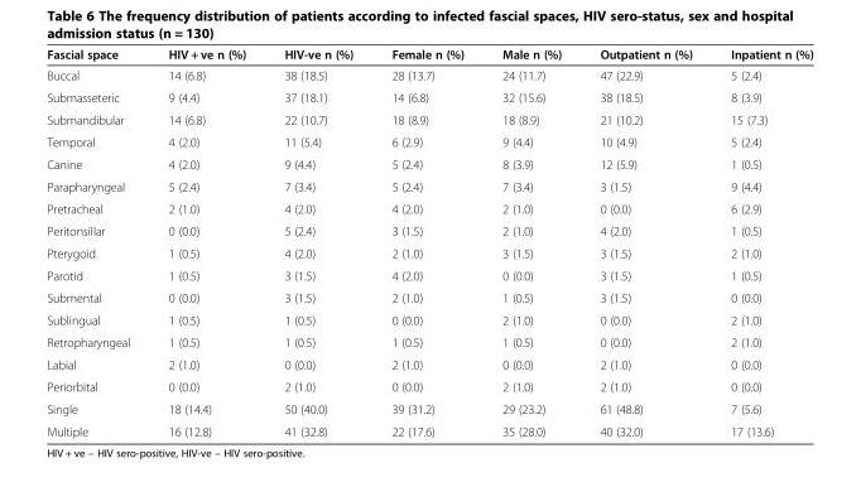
<table><thead><tr><td>Fascial space</td><td>HIV + ve n (%)</td><td>HIV-ve n (%)</td><td>Female n (%)</td><td>Male n (%)</td><td>Outpatient n (%)</td><td>Inpatient n (%)</td></tr></thead><tbody><tr><td>Buccal</td><td>14 (6.8)</td><td>38 (18.5)</td><td>28 (13.7)</td><td>24 (11.7)</td><td>47 (22.9)</td><td>5 (2.4)</td></tr><tr><td>Submasseteric</td><td>9 (4.4)</td><td>37 (18.1)</td><td>14 (6.8)</td><td>32 (15.6)</td><td>38 (18.5)</td><td>8 (3.9)</td></tr><tr><td>Submandibular</td><td>14 (6.8)</td><td>22 (10.7)</td><td>18 (8.9)</td><td>18 (8.9)</td><td>21 (10.2)</td><td>15 (7.3)</td></tr><tr><td>Temporal</td><td>4 (2.0)</td><td>11 (5.4)</td><td>6 (2.9)</td><td>9 (4.4)</td><td>10 (4.9)</td><td>5 (2.4)</td></tr><tr><td>Canine</td><td>4 (2.0)</td><td>9 (4.4)</td><td>5 (2.4)</td><td>8 (3.9)</td><td>12 (5.9)</td><td>1 (0.5)</td></tr><tr><td>Parapharyngeal</td><td>5 (2.4)</td><td>7 (3.4)</td><td>5 (2.4)</td><td>7 (3.4)</td><td>3 (1.5)</td><td>9 (4.4)</td></tr><tr><td>Pretracheal</td><td>2 (1.0)</td><td>4 (2.0)</td><td>4 (2.0)</td><td>2 (1.0)</td><td>0 (0.0)</td><td>6 (2.9)</td></tr><tr><td>Peritonsillar</td><td>0 (0.0)</td><td>5 (2.4)</td><td>3 (1.5)</td><td>2 (1.0)</td><td>4 (2.0)</td><td>1 (0.5)</td></tr><tr><td>Pterygoid</td><td>1 (0.5)</td><td>4 (2.0)</td><td>2 (1.0)</td><td>3 (1.5)</td><td>3 (1.5)</td><td>2 (1.0)</td></tr><tr><td>Parotid</td><td>1 (0.5)</td><td>3 (1.5)</td><td>4 (2.0)</td><td>0 (0.0)</td><td>3 (1.5)</td><td>1 (0.5)</td></tr><tr><td>Submental</td><td>0 (0.0)</td><td>3 (1.5)</td><td>2 (1.0)</td><td>1 (0.5)</td><td>3 (1.5)</td><td>0 (0.0)</td></tr><tr><td>Sublingual</td><td>1 (0.5)</td><td>1 (0.5)</td><td>0 (0.0)</td><td>2 (1.0)</td><td>0 (0.0)</td><td>2 (1.0)</td></tr><tr><td>Retropharyngeal</td><td>1 (0.5)</td><td>1 (0.5)</td><td>1 (0.5)</td><td>1 (0.5)</td><td>0 (0.0)</td><td>2 (1.0)</td></tr><tr><td>Labial</td><td>2 (1.0)</td><td>0 (0.0)</td><td>2 (1.0)</td><td>0 (0.0)</td><td>2 (1.0)</td><td>0 (0.0)</td></tr><tr><td>Periorbital</td><td>0 (0.0)</td><td>2 (1.0)</td><td>0 (0.0)</td><td>2 (1.0)</td><td>2 (1.0)</td><td>0 (0.0)</td></tr><tr><td>Single</td><td>18 (14.4)</td><td>50 (40.0)</td><td>39 (31.2)</td><td>29 (23.2)</td><td>61 (48.8)</td><td>7 (5.6)</td></tr><tr><td>Multiple</td><td>16 (12.8)</td><td>41 (32.8)</td><td>22 (17.6)</td><td>35 (28.0)</td><td>40 (32.0)</td><td>17 (13.6)</td></tr></tbody></table>